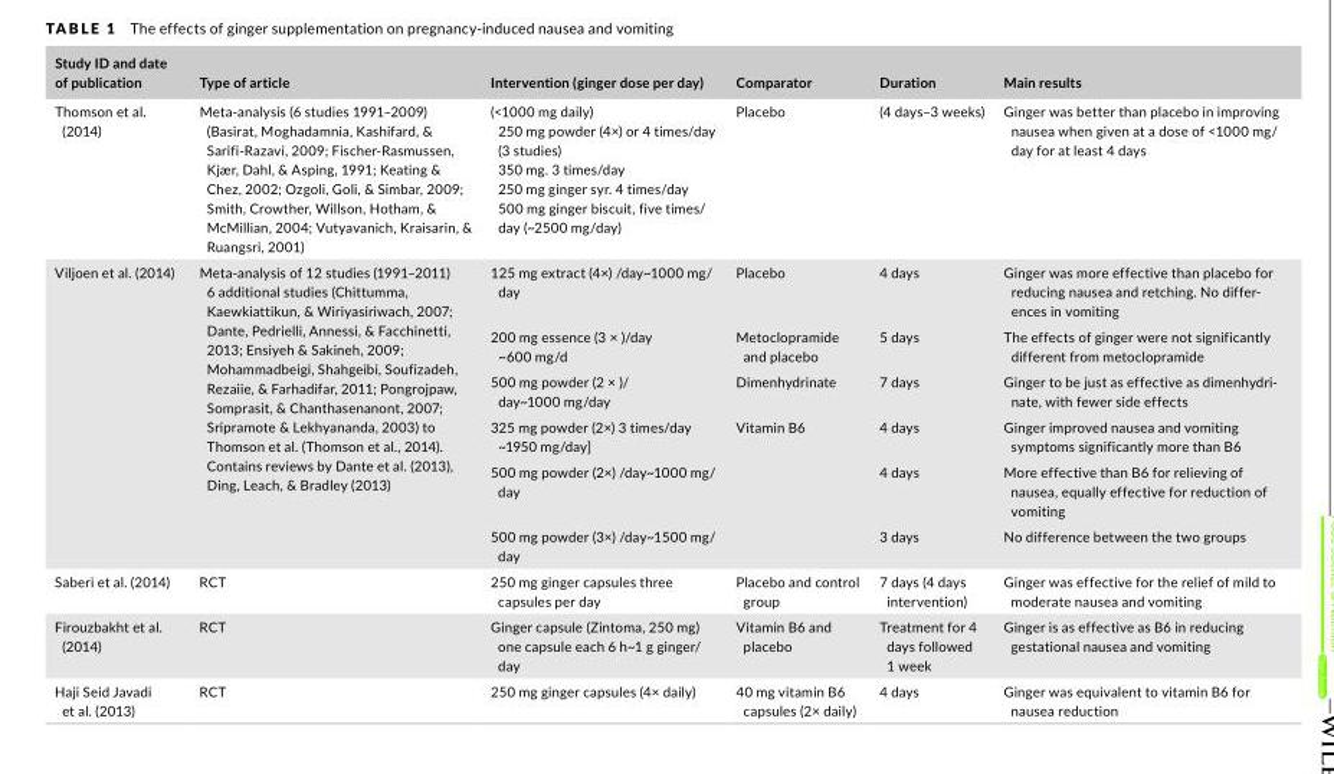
<table><thead><tr><td>Study ID and date of publication</td><td>Type of article</td><td>Intervention (ginger dose per day)</td><td>Comparator</td><td>Duration</td><td>Main results</td></tr></thead><tbody><tr><td>Thomson et al. (2014)</td><td>Meta- analysis (6 studies 1991–2009) (Basirat, Moghadamnia, Kashifard, &amp; Sarifi- Razavi, 2009; Fischer- Rasmussen, Kjær, Dahl, &amp; Asping, 1991; Keating &amp; Chez, 2002; Ozgoli, Goli, &amp; Simbar, 2009; Smith, Crowther, Willson, Hotham, &amp; McMillian, 2004; Vutyavanich, Kraisarin, &amp; Ruangsri, 2001)</td><td>(&lt;1000 mg daily) 250 mg powder (4×) or 4 times/day (3 studies) 350 mg. 3 times/day 250 mg ginger syr. 4 times/day 500 mg ginger biscuit, five times/ day (~2500 mg/day)</td><td>Placebo</td><td>(4 days–3 weeks)</td><td>Ginger was better than placebo in improving nausea when given at a dose of &lt;1000 mg/ day for at least 4 days</td></tr><tr><td rowspan="6">Viljoen et al. (2014)</td><td rowspan="6">Meta- analysis of 12 studies (1991–2011) 6 additional studies (Chittumma, Kaewkiattikun, &amp; Wiriyasiriwach, 2007; Dante, Pedrielli, Annessi, &amp; Facchinetti, 2013; Ensiyeh &amp; Sakineh, 2009; Mohammadbeigi, Shahgeibi, Soufizadeh, Rezaiie, &amp; Farhadifar, 2011; Pongrojpaw, Somprasit, &amp; Chanthasenanont, 2007; Sripramote &amp; Lekhyananda, 2003) to Thomson et al. (Thomson et al., 2014). Contains reviews by Dante et al. (2013), Ding, Leach, &amp; Bradley (2013)</td><td>125 mg extract (4×) /day~1000 mg/ day</td><td>Placebo</td><td>4 days</td><td>Ginger was more effective than placebo for reducing nausea and retching. No differ- ences in vomiting</td></tr><tr><td>200 mg essence (3 × )/day ~600 mg/d</td><td>Metoclopramide and placebo</td><td>5 days</td><td>The effects of ginger were not significantly different from metoclopramide</td></tr><tr><td>500 mg powder (2 × )/ day~1000 mg/day</td><td>Dimenhydrinate</td><td>7 days</td><td>Ginger to be just as effective as dimenhydri- nate, with fewer side effects</td></tr><tr><td>325 mg powder (2×) 3 times/day ~1950 mg/day]</td><td rowspan="3">Vitamin B6</td><td>4 days</td><td>Ginger improved nausea and vomiting symptoms significantly more than B6</td></tr><tr><td>500 mg powder (2×) /day~1000 mg/ day</td><td>4 days</td><td>More effective than B6 for relieving of nausea, equally effective for reduction of vomiting</td></tr><tr><td>500 mg powder (3×) /day~1500 mg/ day</td><td>3 days</td><td>No difference between the two groups</td></tr><tr><td>Saberi et al. (2014)</td><td>RCT</td><td>250 mg ginger capsules three capsules per day</td><td>Placebo and control group</td><td>7 days (4 days intervention)</td><td>Ginger was effective for the relief of mild to moderate nausea and vomiting</td></tr><tr><td>Firouzbakht et al. (2014)</td><td>RCT</td><td>Ginger capsule (Zintoma, 250 mg) one capsule each 6 h~1 g ginger/ day</td><td>Vitamin B6 and placebo</td><td>Treatment for 4 days followed 1 week</td><td>Ginger is as effective as B6 in reducing gestational nausea and vomiting</td></tr><tr><td>Haji Seid Javadi et al. (2013)</td><td>RCT</td><td>250 mg ginger capsules (4× daily)</td><td>40 mg vitamin B6 capsules (2× daily)</td><td>4 days</td><td>Ginger was equivalent to vitamin B6 for nausea reduction</td></tr></tbody></table>